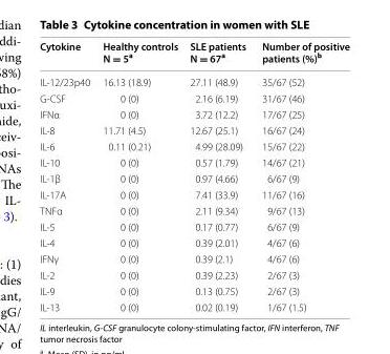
<table><thead><tr><td>Cytokine</td><td>Healthy controls N = 5<sup>a</sup></td><td>SLE patients N = 67<sup>a</sup></td><td>Number of positive patients (%)<sup>b</sup></td></tr></thead><tbody><tr><td>IL‑12/23p40</td><td>16.13 (18.9)</td><td>27.11 (48.9)</td><td>35/67 (52)</td></tr><tr><td>G‑CSF</td><td>0 (0)</td><td>2.16 (6.19)</td><td>31/67 (46)</td></tr><tr><td>IFNα</td><td>0 (0)</td><td>3.72 (12.2)</td><td>17/67 (25)</td></tr><tr><td>IL‑8</td><td>11.71 (4.5)</td><td>12.67 (25.1)</td><td>16/67 (24)</td></tr><tr><td>IL‑6</td><td>0.11 (0.21)</td><td>4.99 (28.09)</td><td>15/67 (22)</td></tr><tr><td>IL‑10</td><td>0 (0)</td><td>0.57 (1.79)</td><td>14/67 (21)</td></tr><tr><td>IL‑1β</td><td>0 (0)</td><td>0.97 (4.66)</td><td>6/67 (9)</td></tr><tr><td>IL‑17A</td><td>0 (0)</td><td>7.41 (33.9)</td><td>11/67 (16)</td></tr><tr><td>TNFα</td><td>0 (0)</td><td>2.11 (9.34)</td><td>9/67 (13)</td></tr><tr><td>IL‑5</td><td>0 (0)</td><td>0.17 (0.77)</td><td>6/67 (9)</td></tr><tr><td>IL‑4</td><td>0 (0)</td><td>0.39 (2.01)</td><td>4/67 (6)</td></tr><tr><td>IFNγ</td><td>0 (0)</td><td>0.39 (2.1)</td><td>4/67 (6)</td></tr><tr><td>IL‑2</td><td>0 (0)</td><td>0.39 (2.23)</td><td>2/67 (3)</td></tr><tr><td>IL‑9</td><td>0 (0)</td><td>0.13 (0.75)</td><td>2/67 (3)</td></tr><tr><td>IL‑13</td><td>0 (0)</td><td>0.02 (0.19)</td><td>1/67 (1.5)</td></tr></tbody></table>